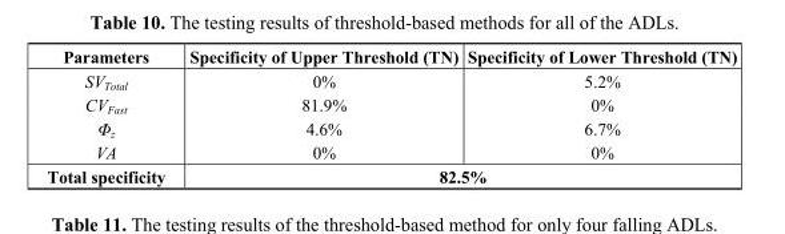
<table><thead><tr><td>Parameters</td><td>Specificity of Upper Threshold (TN)</td><td>Specificity of Lower Threshold (TN)</td></tr></thead><tbody><tr><td>SV<sub>Total</sub></td><td>0%</td><td>5.2%</td></tr><tr><td>CV<sub>Fast</sub></td><td>81.9%</td><td>0%</td></tr><tr><td>Φ<sub>z</sub></td><td>4.6%</td><td>6.7%</td></tr><tr><td>VA</td><td>0%</td><td>0%</td></tr><tr><td>Total specificity</td><td colspan="2">82.5%</td></tr></tbody></table>